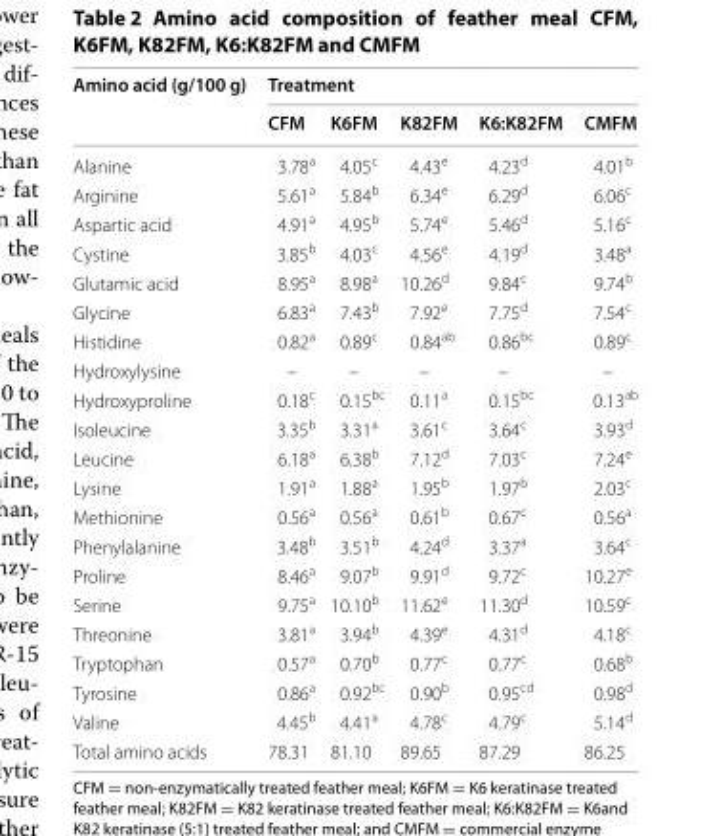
<table><thead><tr><td rowspan="2">Amino acid (g/100 g)</td><td colspan="5">Treatment</td></tr><tr><td>CFM</td><td>K6FM</td><td>K82FM</td><td>K6:K82FM</td><td>CMFM</td></tr></thead><tbody><tr><td>Alanine</td><td>3.78<sup>a</sup></td><td>4.05<sup>c</sup></td><td>4.43<sup>e</sup></td><td>4.23<sup>d</sup></td><td>4.01<sup>b</sup></td></tr><tr><td>Arginine</td><td>5.61<sup>a</sup></td><td>5.84<sup>b</sup></td><td>6.34<sup>e</sup></td><td>6.29<sup>d</sup></td><td>6.06<sup>c</sup></td></tr><tr><td>Aspartic acid</td><td>4.91<sup>a</sup></td><td>4.95<sup>b</sup></td><td>5.74<sup>e</sup></td><td>5.46<sup>d</sup></td><td>5.16<sup>c</sup></td></tr><tr><td>Cystine</td><td>3.85<sup>b</sup></td><td>4.03<sup>c</sup></td><td>4.56<sup>e</sup></td><td>4.19<sup>d</sup></td><td>3.48<sup>a</sup></td></tr><tr><td>Glutamic acid</td><td>8.95<sup>a</sup></td><td>8.98<sup>a</sup></td><td>10.26<sup>d</sup></td><td>9.84<sup>c</sup></td><td>9.74<sup>b</sup></td></tr><tr><td>Glycine</td><td>6.83<sup>a</sup></td><td>7.43<sup>b</sup></td><td>7.92<sup>e</sup></td><td>7.75<sup>d</sup></td><td>7.54<sup>c</sup></td></tr><tr><td>Histidine</td><td>0.82<sup>a</sup></td><td>0.89<sup>c</sup></td><td>0.84<sup>ab</sup></td><td>0.86<sup>bc</sup></td><td>0.89<sup>c</sup></td></tr><tr><td>Hydroxylysine</td><td>–</td><td>–</td><td>–</td><td>–</td><td>–</td></tr><tr><td>Hydroxyproline</td><td>0.18<sup>c</sup></td><td>0.15<sup>bc</sup></td><td>0.11<sup>a</sup></td><td>0.15<sup>bc</sup></td><td>0.13<sup>ab</sup></td></tr><tr><td>Isoleucine</td><td>3.35<sup>b</sup></td><td>3.31<sup>a</sup></td><td>3.61<sup>c</sup></td><td>3.64<sup>c</sup></td><td>3.93<sup>d</sup></td></tr><tr><td>Leucine</td><td>6.18<sup>a</sup></td><td>6.38<sup>b</sup></td><td>7.12<sup>d</sup></td><td>7.03<sup>c</sup></td><td>7.24<sup>e</sup></td></tr><tr><td>Lysine</td><td>1.91<sup>a</sup></td><td>1.88<sup>a</sup></td><td>1.95<sup>b</sup></td><td>1.97<sup>b</sup></td><td>2.03<sup>c</sup></td></tr><tr><td>Methionine</td><td>0.56<sup>a</sup></td><td>0.56<sup>a</sup></td><td>0.61<sup>b</sup></td><td>0.67<sup>c</sup></td><td>0.56<sup>a</sup></td></tr><tr><td>Phenylalanine</td><td>3.48<sup>b</sup></td><td>3.51<sup>b</sup></td><td>4.24<sup>d</sup></td><td>3.37<sup>a</sup></td><td>3.64<sup>c</sup></td></tr><tr><td>Proline</td><td>8.46<sup>a</sup></td><td>9.07<sup>b</sup></td><td>9.91<sup>d</sup></td><td>9.72<sup>c</sup></td><td>10.27<sup>e</sup></td></tr><tr><td>Serine</td><td>9.75<sup>a</sup></td><td>10.10<sup>b</sup></td><td>11.62<sup>e</sup></td><td>11.30<sup>d</sup></td><td>10.59<sup>c</sup></td></tr><tr><td>Threonine</td><td>3.81<sup>a</sup></td><td>3.94<sup>b</sup></td><td>4.39<sup>e</sup></td><td>4.31<sup>d</sup></td><td>4.18<sup>c</sup></td></tr><tr><td>Tryptophan</td><td>0.57<sup>a</sup></td><td>0.70<sup>b</sup></td><td>0.77<sup>c</sup></td><td>0.77<sup>c</sup></td><td>0.68<sup>b</sup></td></tr><tr><td>Tyrosine</td><td>0.86<sup>a</sup></td><td>0.92<sup>bc</sup></td><td>0.90<sup>b</sup></td><td>0.95<sup>cd</sup></td><td>0.98<sup>d</sup></td></tr><tr><td>Valine</td><td>4.45<sup>b</sup></td><td>4.41<sup>a</sup></td><td>4.78<sup>c</sup></td><td>4.79<sup>c</sup></td><td>5.14<sup>d</sup></td></tr><tr><td>Total amino acids</td><td>78.31</td><td>81.10</td><td>89.65</td><td>87.29</td><td>86.25</td></tr></tbody></table>